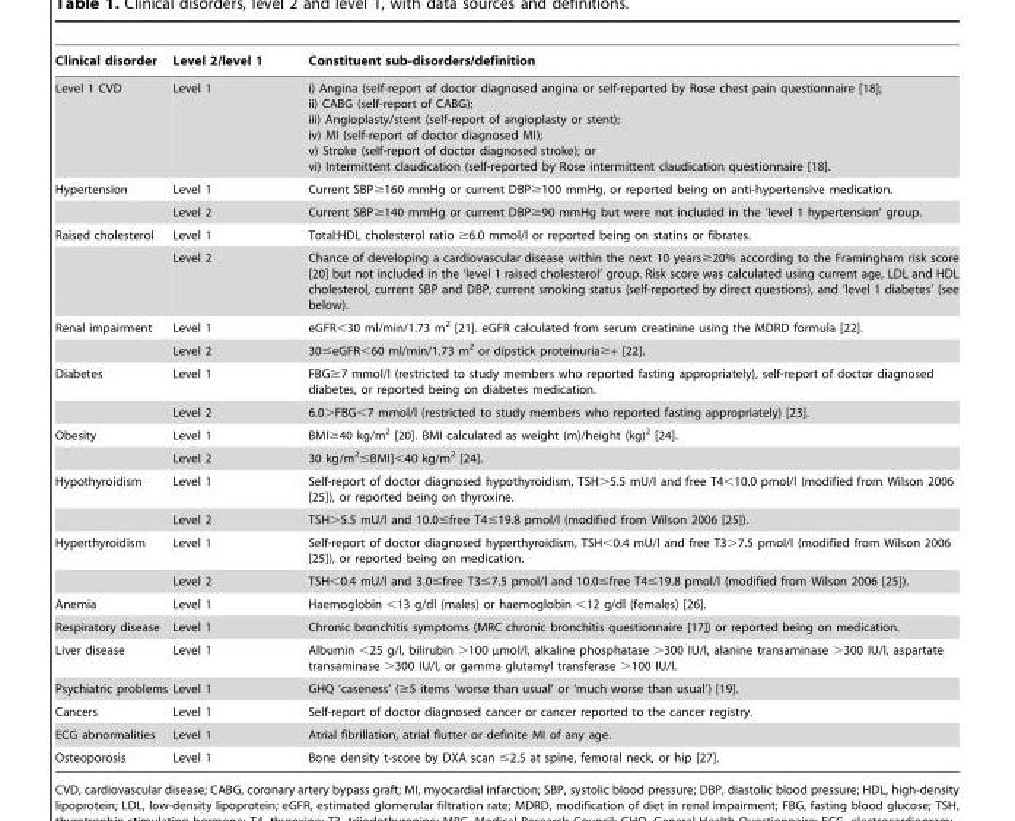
<table><thead><tr><td>Clinical disorder</td><td>Level 2/level 1</td><td>Constituent sub-disorders/definition</td></tr></thead><tbody><tr><td>Level 1 CVD</td><td>Level 1</td><td>i) Angina (self-report of doctor diagnosed angina or self-reported by Rose chest pain questionnaire [18]; ii) CABG (self-report of CABG); iii) Angioplasty/stent (self-report of angioplasty or stent); iv) MI (self-report of doctor diagnosed MI); v) Stroke (self-report of doctor diagnosed stroke); or vi) Intermittent claudication (self-reported by Rose intermittent claudication questionnaire [18].</td></tr><tr><td rowspan="2">Hypertension</td><td>Level 1</td><td>Current SBP≥160 mmHg or current DBP≥100 mmHg, or reported being on anti-hypertensive medication.</td></tr><tr><td>Level 2</td><td>Current SBP≥140 mmHg or current DBP≥90 mmHg but were not included in the ‘level 1 hypertension’ group.</td></tr><tr><td rowspan="2">Raised cholesterol</td><td>Level 1</td><td>Total:HDL cholesterol ratio ≥6.0 mmol/l or reported being on statins or fibrates.</td></tr><tr><td>Level 2</td><td>Chance of developing a cardiovascular disease within the next 10 years≥20% according to the Framingham risk score [20] but not included in the ‘level 1 raised cholesterol’ group. Risk score was calculated using current age, LDL and HDL cholesterol, current SBP and DBP, current smoking status (self-reported by direct questions), and ‘level 1 diabetes’ (see below).</td></tr><tr><td rowspan="2">Renal impairment</td><td>Level 1</td><td>eGFR&lt;30 ml/min/1.73 m<sup>2</sup> [21]. eGFR calculated from serum creatinine using the MDRD formula [22].</td></tr><tr><td>Level 2</td><td>30≤eGFR&lt;60 ml/min/1.73 m<sup>2</sup> or dipstick proteinuria≥+ [22].</td></tr><tr><td rowspan="2">Diabetes</td><td>Level 1</td><td>FBG≥7 mmol/l (restricted to study members who reported fasting appropriately), self-report of doctor diagnosed diabetes, or reported being on diabetes medication.</td></tr><tr><td>Level 2</td><td>6.0&gt;FBG&lt;7 mmol/l (restricted to study members who reported fasting appropriately) [23].</td></tr><tr><td rowspan="2">Obesity</td><td>Level 1</td><td>BMI≥40 kg/m<sup>2</sup> [20]. BMI calculated as weight (m)/height (kg)<sup>2</sup> [24].</td></tr><tr><td>Level 2</td><td>30 kg/m<sup>2</sup>≤BMI]&lt;40 kg/m<sup>2</sup> [24].</td></tr><tr><td rowspan="2">Hypothyroidism</td><td>Level 1</td><td>Self-report of doctor diagnosed hypothyroidism, TSH&gt;5.5 mU/l and free T4&lt;10.0 pmol/l (modified from Wilson 2006 [25]), or reported being on thyroxine.</td></tr><tr><td>Level 2</td><td>TSH&gt;5.5 mU/l and 10.0≤free T4≤19.8 pmol/l (modified from Wilson 2006 [25]).</td></tr><tr><td rowspan="2">Hyperthyroidism</td><td>Level 1</td><td>Self-report of doctor diagnosed hyperthyroidism, TSH&lt;0.4 mU/l and free T3&gt;7.5 pmol/l (modified from Wilson 2006 [25]), or reported being on medication.</td></tr><tr><td>Level 2</td><td>TSH&lt;0.4 mU/l and 3.0≤free T3≤7.5 pmol/l and 10.0≤free T4≤19.8 pmol/l (modified from Wilson 2006 [25]).</td></tr><tr><td>Anemia</td><td>Level 1</td><td>Haemoglobin &lt;13 g/dl (males) or haemoglobin &lt;12 g/dl (females) [26].</td></tr><tr><td>Respiratory disease</td><td>Level 1</td><td>Chronic bronchitis symptoms (MRC chronic bronchitis questionnaire [17]) or reported being on medication.</td></tr><tr><td>Liver disease</td><td>Level 1</td><td>Albumin &lt;25 g/l, bilirubin &gt;100 µmol/l, alkaline phosphatase &gt;300 IU/l, alanine transaminase &gt;300 IU/l, aspartate transaminase &gt;300 IU/l, or gamma glutamyl transferase &gt;100 IU/l.</td></tr><tr><td>Psychiatric problems</td><td>Level 1</td><td>GHQ ‘caseness’ (≥5 items ‘worse than usual’ or ‘much worse than usual’) [19].</td></tr><tr><td>Cancers</td><td>Level 1</td><td>Self-report of doctor diagnosed cancer or cancer reported to the cancer registry.</td></tr><tr><td>ECG abnormalities</td><td>Level 1</td><td>Atrial fibrillation, atrial flutter or definite MI of any age.</td></tr><tr><td>Osteoporosis</td><td>Level 1</td><td>Bone density t-score by DXA scan ≤2.5 at spine, femoral neck, or hip [27].</td></tr></tbody></table>